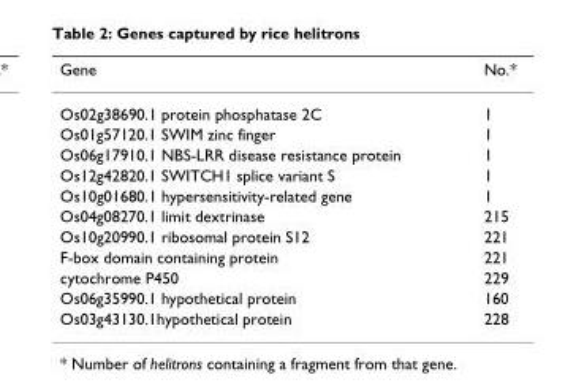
<table><thead><tr><td>Gene</td><td>No.*</td></tr></thead><tbody><tr><td>Os02g38690.1 protein phosphatase 2C</td><td>1</td></tr><tr><td>Os01g57120.1 SWIM zinc finger</td><td>1</td></tr><tr><td>Os06g17910.1 NBS-LRR disease resistance protein</td><td>1</td></tr><tr><td>Os12g42820.1 SWITCH1 splice variant S</td><td>1</td></tr><tr><td>Os10g01680.1 hypersensitivity-related gene</td><td>1</td></tr><tr><td>Os04g08270.1 limit dextrinase</td><td>215</td></tr><tr><td>Os10g20990.1 ribosomal protein S12</td><td>221</td></tr><tr><td>F-box domain containing protein</td><td>221</td></tr><tr><td>cytochrome P450</td><td>229</td></tr><tr><td>Os06g35990.1 hypothetical protein</td><td>160</td></tr><tr><td>Os03g43130.1hypothetical protein</td><td>228</td></tr></tbody></table>